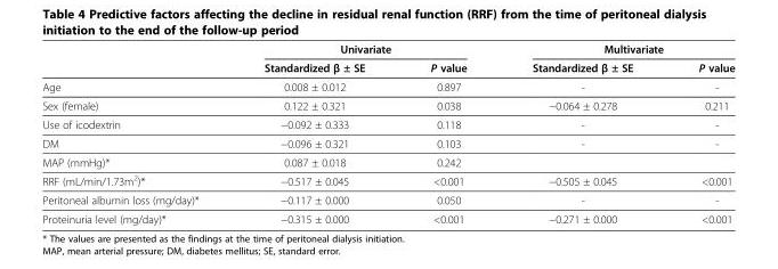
<table><thead><tr><td rowspan="2"></td><td colspan="2">Univariate</td><td colspan="2">Multivariate</td></tr><tr><td>Standardized β ± SE</td><td>P value</td><td>Standardized β ± SE</td><td>P value</td></tr></thead><tbody><tr><td>Age</td><td>0.008 ± 0.012</td><td>0.897</td><td>-</td><td>-</td></tr><tr><td>Sex (female)</td><td>0.122 ± 0.321</td><td>0.038</td><td>−0.064 ± 0.278</td><td>0.211</td></tr><tr><td>Use of icodextrin</td><td>−0.092 ± 0.333</td><td>0.118</td><td>-</td><td>-</td></tr><tr><td>DM</td><td>−0.096 ± 0.321</td><td>0.103</td><td>-</td><td>-</td></tr><tr><td>MAP (mmHg)*</td><td>0.087 ± 0.018</td><td>0.242</td><td></td><td></td></tr><tr><td>RRF (mL/min/1.73m<sup>2</sup>)*</td><td>−0.517 ± 0.045</td><td>&lt;0.001</td><td>−0.505 ± 0.045</td><td>&lt;0.001</td></tr><tr><td>Peritoneal albumin loss (mg/day)*</td><td>−0.117 ± 0.000</td><td>0.050</td><td>-</td><td>-</td></tr><tr><td>Proteinuria level (mg/day)*</td><td>−0.315 ± 0.000</td><td>&lt;0.001</td><td>−0.271 ± 0.000</td><td>&lt;0.001</td></tr></tbody></table>